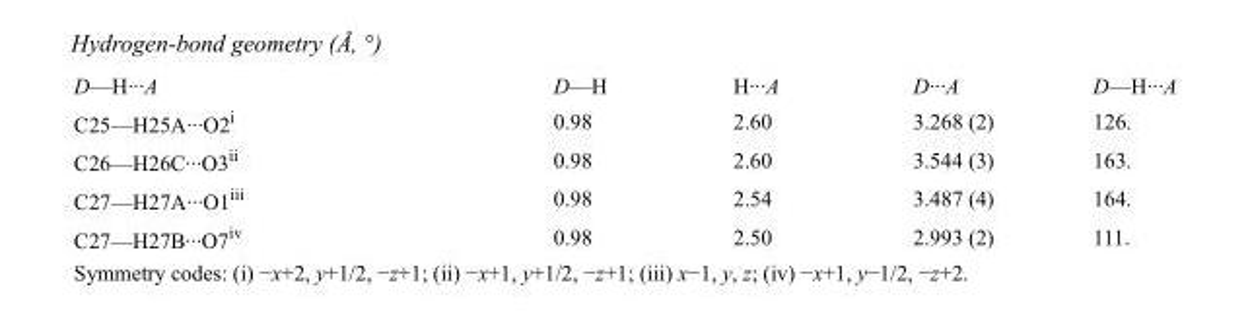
<table><tbody><tr><td>D—H···A</td><td>D—H</td><td>H···A</td><td>D···A</td><td>D—H···A</td></tr><tr><td>C25—H25A···O2<sup>i</sup></td><td>0.98</td><td>2.60</td><td>3.268 (2)</td><td>126.</td></tr><tr><td>C26—H26C···O3<sup>ii</sup></td><td>0.98</td><td>2.60</td><td>3.544 (3)</td><td>163.</td></tr><tr><td>C27—H27A···O1<sup>iii</sup></td><td>0.98</td><td>2.54</td><td>3.487 (4)</td><td>164.</td></tr><tr><td>C27—H27B···O7<sup>iv</sup></td><td>0.98</td><td>2.50</td><td>2.993 (2)</td><td>111.</td></tr></tbody></table>